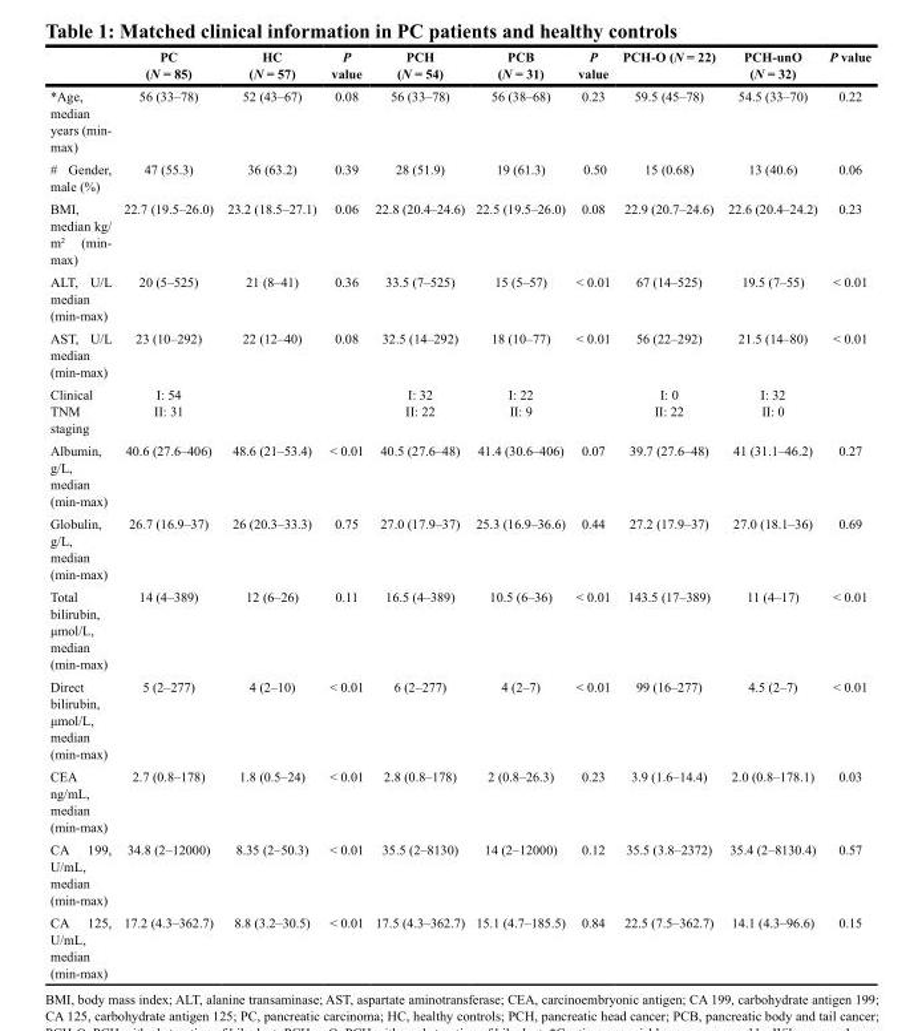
<table><thead><tr><td></td><td>PC (N = 85)</td><td>HC (N = 57)</td><td>P value</td><td>PCH (N = 54)</td><td>PCB (N = 31)</td><td>P value</td><td>PCH-O (N = 22)</td><td>PCH-unO (N = 32)</td><td>P value</td></tr></thead><tbody><tr><td>*Age, median years (min- max)</td><td>56 (33–78)</td><td>52 (43–67)</td><td>0.08</td><td>56 (33–78)</td><td>56 (38–68)</td><td>0.23</td><td>59.5 (45–78)</td><td>54.5 (33–70)</td><td>0.22</td></tr><tr><td># Gender, male (%)</td><td>47 (55.3)</td><td>36 (63.2)</td><td>0.39</td><td>28 (51.9)</td><td>19 (61.3)</td><td>0.50</td><td>15 (0.68)</td><td>13 (40.6)</td><td>0.06</td></tr><tr><td>BMI, median kg/ m<sup>2</sup> (min- max)</td><td>22.7 (19.5–26.0)</td><td>23.2 (18.5–27.1)</td><td>0.06</td><td>22.8 (20.4–24.6)</td><td>22.5 (19.5–26.0)</td><td>0.08</td><td>22.9 (20.7–24.6)</td><td>22.6 (20.4–24.2)</td><td>0.23</td></tr><tr><td>ALT, U/L median (min-max)</td><td>20 (5–525)</td><td>21 (8–41)</td><td>0.36</td><td>33.5 (7–525)</td><td>15 (5–57)</td><td>&lt; 0.01</td><td>67 (14–525)</td><td>19.5 (7–55)</td><td>&lt; 0.01</td></tr><tr><td>AST, U/L median (min-max)</td><td>23 (10–292)</td><td>22 (12–40)</td><td>0.08</td><td>32.5 (14–292)</td><td>18 (10–77)</td><td>&lt; 0.01</td><td>56 (22–292)</td><td>21.5 (14–80)</td><td>&lt; 0.01</td></tr><tr><td>Clinical TNM staging</td><td>I: 54 II: 31</td><td></td><td></td><td>I: 32 II: 22</td><td>I: 22 II: 9</td><td></td><td>I: 0 II: 22</td><td>I: 32 II: 0</td><td></td></tr><tr><td>Albumin, g/L, median (min-max)</td><td>40.6 (27.6–406)</td><td>48.6 (21–53.4)</td><td>&lt; 0.01</td><td>40.5 (27.6–48)</td><td>41.4 (30.6–406)</td><td>0.07</td><td>39.7 (27.6–48)</td><td>41 (31.1–46.2)</td><td>0.27</td></tr><tr><td>Globulin, g/L, median (min-max)</td><td>26.7 (16.9–37)</td><td>26 (20.3–33.3)</td><td>0.75</td><td>27.0 (17.9–37)</td><td>25.3 (16.9–36.6)</td><td>0.44</td><td>27.2 (17.9–37)</td><td>27.0 (18.1–36)</td><td>0.69</td></tr><tr><td>Total bilirubin, μmol/L, median (min-max)</td><td>14 (4–389)</td><td>12 (6–26)</td><td>0.11</td><td>16.5 (4–389)</td><td>10.5 (6–36)</td><td>&lt; 0.01</td><td>143.5 (17–389)</td><td>11 (4–17)</td><td>&lt; 0.01</td></tr><tr><td>Direct bilirubin, μmol/L, median (min-max)</td><td>5 (2–277)</td><td>4 (2–10)</td><td>&lt; 0.01</td><td>6 (2–277)</td><td>4 (2–7)</td><td>&lt; 0.01</td><td>99 (16–277)</td><td>4.5 (2–7)</td><td>&lt; 0.01</td></tr><tr><td>CEA ng/mL, median (min-max)</td><td>2.7 (0.8–178)</td><td>1.8 (0.5–24)</td><td>&lt; 0.01</td><td>2.8 (0.8–178)</td><td>2 (0.8–26.3)</td><td>0.23</td><td>3.9 (1.6–14.4)</td><td>2.0 (0.8–178.1)</td><td>0.03</td></tr><tr><td>CA 199, U/mL, median (min-max)</td><td>34.8 (2–12000)</td><td>8.35 (2–50.3)</td><td>&lt; 0.01</td><td>35.5 (2–8130)</td><td>14 (2–12000)</td><td>0.12</td><td>35.5 (3.8–2372)</td><td>35.4 (2–8130.4)</td><td>0.57</td></tr><tr><td>CA 125, U/mL, median (min-max)</td><td>17.2 (4.3–362.7)</td><td>8.8 (3.2–30.5)</td><td>&lt; 0.01</td><td>17.5 (4.3–362.7)</td><td>15.1 (4.7–185.5)</td><td>0.84</td><td>22.5 (7.5–362.7)</td><td>14.1 (4.3–96.6)</td><td>0.15</td></tr></tbody></table>